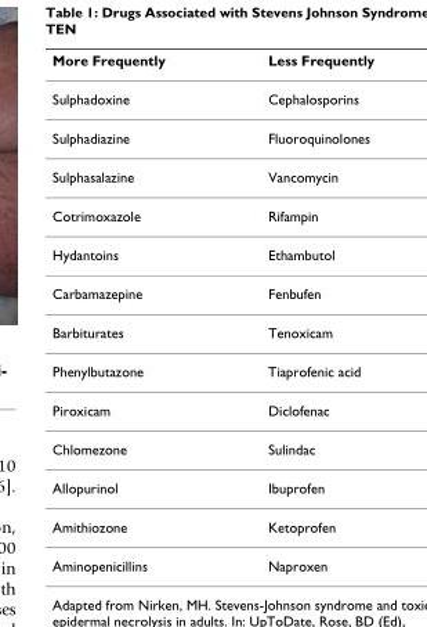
<table><thead><tr><td>More Frequently</td><td>Less Frequently</td></tr></thead><tbody><tr><td>Sulphadoxine</td><td>Cephalosporins</td></tr><tr><td>Sulphadiazine</td><td>Fluoroquinolones</td></tr><tr><td>Sulphasalazine</td><td>Vancomycin</td></tr><tr><td>Cotrimoxazole</td><td>Rifampin</td></tr><tr><td>Hydantoins</td><td>Ethambutol</td></tr><tr><td>Carbamazepine</td><td>Fenbufen</td></tr><tr><td>Barbiturates</td><td>Tenoxicam</td></tr><tr><td>Phenylbutazone</td><td>Tiaprofenic acid</td></tr><tr><td>Piroxicam</td><td>Diclofenac</td></tr><tr><td>Chlomezone</td><td>Sulindac</td></tr><tr><td>Allopurinol</td><td>Ibuprofen</td></tr><tr><td>Amithiozone</td><td>Ketoprofen</td></tr><tr><td>Aminopenicillins</td><td>Naproxen</td></tr></tbody></table>